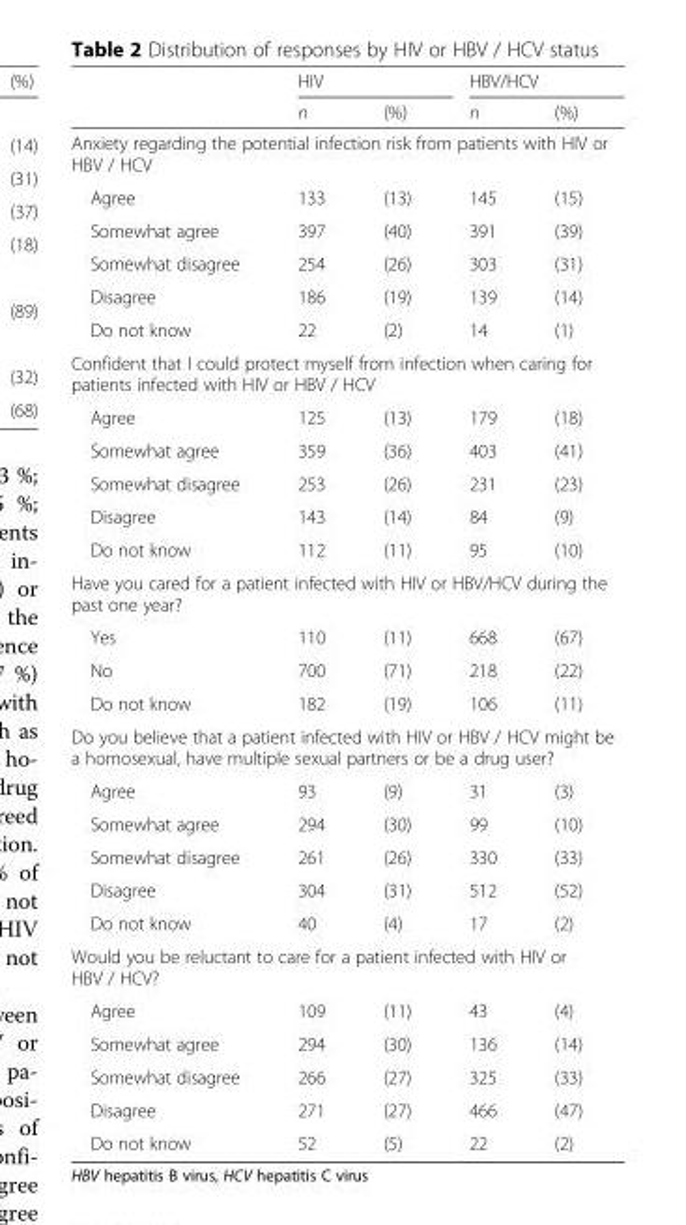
<table><thead><tr><td rowspan="2"></td><td colspan="2">HIV</td><td colspan="2">HBV/HCV</td></tr><tr><td>n</td><td>(%)</td><td>n</td><td>(%)</td></tr></thead><tbody><tr><td colspan="5">Anxiety regarding the potential infection risk from patients with HIV or HBV / HCV</td></tr><tr><td>Agree</td><td>133</td><td>(13)</td><td>145</td><td>(15)</td></tr><tr><td>Somewhat agree</td><td>397</td><td>(40)</td><td>391</td><td>(39)</td></tr><tr><td>Somewhat disagree</td><td>254</td><td>(26)</td><td>303</td><td>(31)</td></tr><tr><td>Disagree</td><td>186</td><td>(19)</td><td>139</td><td>(14)</td></tr><tr><td>Do not know</td><td>22</td><td>(2)</td><td>14</td><td>(1)</td></tr><tr><td colspan="5">Confident that I could protect myself from infection when caring for patients infected with HIV or HBV / HCV</td></tr><tr><td>Agree</td><td>125</td><td>(13)</td><td>179</td><td>(18)</td></tr><tr><td>Somewhat agree</td><td>359</td><td>(36)</td><td>403</td><td>(41)</td></tr><tr><td>Somewhat disagree</td><td>253</td><td>(26)</td><td>231</td><td>(23)</td></tr><tr><td>Disagree</td><td>143</td><td>(14)</td><td>84</td><td>(9)</td></tr><tr><td>Do not know</td><td>112</td><td>(11)</td><td>95</td><td>(10)</td></tr><tr><td colspan="5">Have you cared for a patient infected with HIV or HBV/HCV during the past one year?</td></tr><tr><td>Yes</td><td>110</td><td>(11)</td><td>668</td><td>(67)</td></tr><tr><td>No</td><td>700</td><td>(71)</td><td>218</td><td>(22)</td></tr><tr><td>Do not know</td><td>182</td><td>(19)</td><td>106</td><td>(11)</td></tr><tr><td colspan="5">Do you believe that a patient infected with HIV or HBV / HCV might be a homosexual, have multiple sexual partners or be a drug user?</td></tr><tr><td>Agree</td><td>93</td><td>(9)</td><td>31</td><td>(3)</td></tr><tr><td>Somewhat agree</td><td>294</td><td>(30)</td><td>99</td><td>(10)</td></tr><tr><td>Somewhat disagree</td><td>261</td><td>(26)</td><td>330</td><td>(33)</td></tr><tr><td>Disagree</td><td>304</td><td>(31)</td><td>512</td><td>(52)</td></tr><tr><td>Do not know</td><td>40</td><td>(4)</td><td>17</td><td>(2)</td></tr><tr><td colspan="5">Would you be reluctant to care for a patient infected with HIV or HBV / HCV?</td></tr><tr><td>Agree</td><td>109</td><td>(11)</td><td>43</td><td>(4)</td></tr><tr><td>Somewhat agree</td><td>294</td><td>(30)</td><td>136</td><td>(14)</td></tr><tr><td>Somewhat disagree</td><td>266</td><td>(27)</td><td>325</td><td>(33)</td></tr><tr><td>Disagree</td><td>271</td><td>(27)</td><td>466</td><td>(47)</td></tr><tr><td>Do not know</td><td>52</td><td>(5)</td><td>22</td><td>(2)</td></tr></tbody></table>